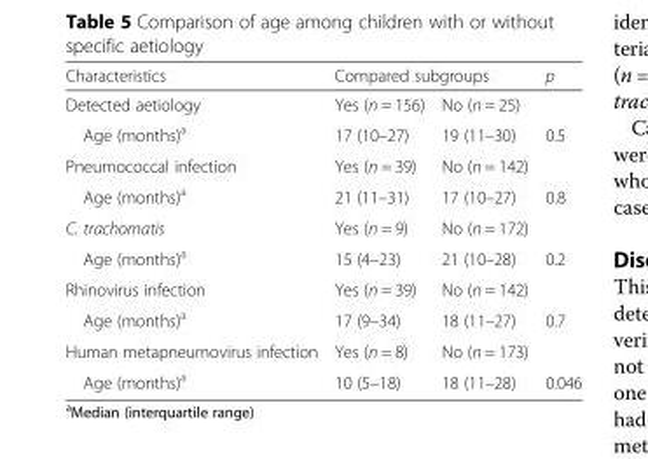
<table><thead><tr><td rowspan="2">Characteristics Detected aetiology</td><td colspan="2">Compared subgroups</td><td rowspan="2">p</td></tr><tr><td>Yes (n = 156)</td><td>No (n = 25)</td></tr></thead><tbody><tr><td>Age (months)<sup>a</sup></td><td>17 (10–27)</td><td>19 (11–30)</td><td>0.5</td></tr><tr><td>Pneumococcal infection</td><td>Yes (n = 39)</td><td>No (n = 142)</td><td></td></tr><tr><td>Age (months)<sup>a</sup></td><td>21 (11–31)</td><td>17 (10–27)</td><td>0.8</td></tr><tr><td>C. trachomatis</td><td>Yes (n = 9)</td><td>No (n = 172)</td><td></td></tr><tr><td>Age (months)<sup>a</sup></td><td>15 (4–23)</td><td>21 (10–28)</td><td>0.2</td></tr><tr><td>Rhinovirus infection</td><td>Yes (n = 39)</td><td>No (n = 142)</td><td></td></tr><tr><td>Age (months)<sup>a</sup></td><td>17 (9–34)</td><td>18 (11–27)</td><td>0.7</td></tr><tr><td>Human metapneumovirus infection</td><td>Yes (n = 8)</td><td>No (n = 173)</td><td></td></tr><tr><td>Age (months)<sup>a</sup></td><td>10 (5–18)</td><td>18 (11–28)</td><td>0.046</td></tr></tbody></table>